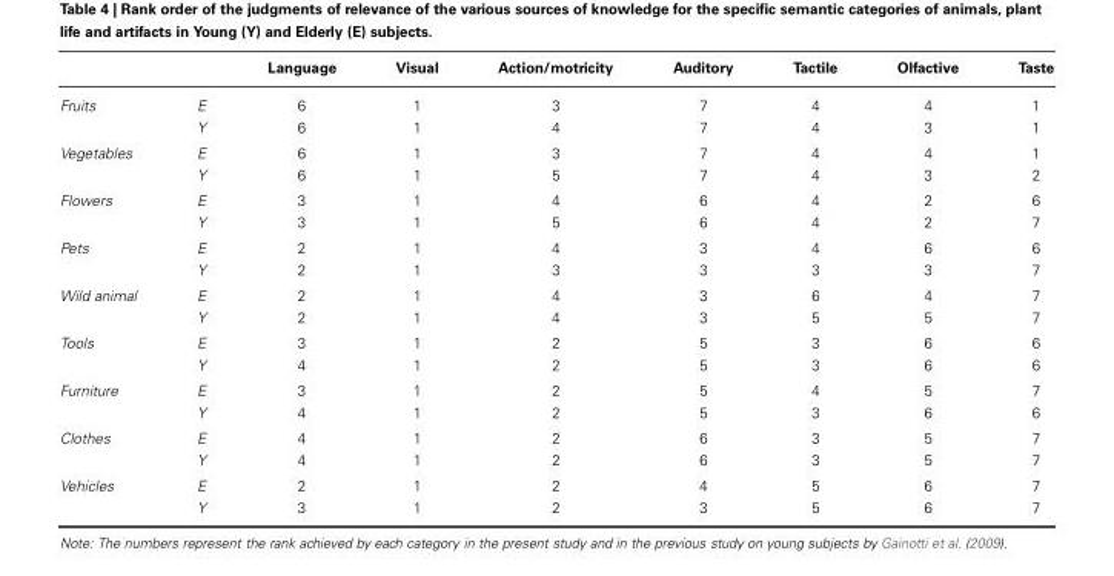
<table><thead><tr><td></td><td></td><td>Language</td><td>Visual</td><td>Action/motricity</td><td>Auditory</td><td>Tactile</td><td>Olfactive</td><td>Taste</td></tr></thead><tbody><tr><td rowspan="2">Fruits</td><td>E</td><td>6</td><td>1</td><td>3</td><td>7</td><td>4</td><td>4</td><td>1</td></tr><tr><td>Y</td><td>6</td><td>1</td><td>4</td><td>7</td><td>4</td><td>3</td><td>1</td></tr><tr><td rowspan="2">Vegetables</td><td>E</td><td>6</td><td>1</td><td>3</td><td>7</td><td>4</td><td>4</td><td>1</td></tr><tr><td>Y</td><td>6</td><td>1</td><td>5</td><td>7</td><td>4</td><td>3</td><td>2</td></tr><tr><td rowspan="2">Flowers</td><td>E</td><td>3</td><td>1</td><td>4</td><td>6</td><td>4</td><td>2</td><td>6</td></tr><tr><td>Y</td><td>3</td><td>1</td><td>5</td><td>6</td><td>4</td><td>2</td><td>7</td></tr><tr><td rowspan="2">Pets</td><td>E</td><td>2</td><td>1</td><td>4</td><td>3</td><td>4</td><td>6</td><td>6</td></tr><tr><td>Y</td><td>2</td><td>1</td><td>3</td><td>3</td><td>3</td><td>3</td><td>7</td></tr><tr><td rowspan="2">Wild animal</td><td>E</td><td>2</td><td>1</td><td>4</td><td>3</td><td>6</td><td>4</td><td>7</td></tr><tr><td>Y</td><td>2</td><td>1</td><td>4</td><td>3</td><td>5</td><td>5</td><td>7</td></tr><tr><td rowspan="2">Tools</td><td>E</td><td>3</td><td>1</td><td>2</td><td>5</td><td>3</td><td>6</td><td>6</td></tr><tr><td>Y</td><td>4</td><td>1</td><td>2</td><td>5</td><td>3</td><td>6</td><td>6</td></tr><tr><td rowspan="2">Furniture</td><td>E</td><td>3</td><td>1</td><td>2</td><td>5</td><td>4</td><td>5</td><td>7</td></tr><tr><td>Y</td><td>4</td><td>1</td><td>2</td><td>5</td><td>3</td><td>6</td><td>6</td></tr><tr><td rowspan="2">Clothes</td><td>E</td><td>4</td><td>1</td><td>2</td><td>6</td><td>3</td><td>5</td><td>7</td></tr><tr><td>Y</td><td>4</td><td>1</td><td>2</td><td>6</td><td>3</td><td>5</td><td>7</td></tr><tr><td rowspan="2">Vehicles</td><td>E</td><td>2</td><td>1</td><td>2</td><td>4</td><td>5</td><td>6</td><td>7</td></tr><tr><td>Y</td><td>3</td><td>1</td><td>2</td><td>3</td><td>5</td><td>6</td><td>7</td></tr></tbody></table>